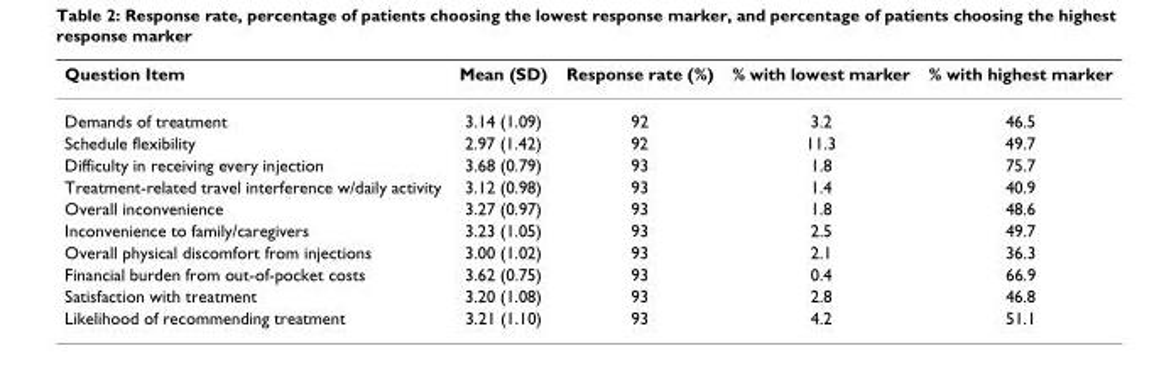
<table><thead><tr><td>Question Item</td><td>Mean (SD)</td><td>Response rate (%)</td><td>% with lowest marker</td><td>% with highest marker</td></tr></thead><tbody><tr><td>Demands of treatment</td><td>3.14 (1.09)</td><td>92</td><td>3.2</td><td>46.5</td></tr><tr><td>Schedule flexibility</td><td>2.97 (1.42)</td><td>92</td><td>11.3</td><td>49.7</td></tr><tr><td>Difficulty in receiving every injection</td><td>3.68 (0.79)</td><td>93</td><td>1.8</td><td>75.7</td></tr><tr><td>Treatment-related travel interference w/daily activity</td><td>3.12 (0.98)</td><td>93</td><td>1.4</td><td>40.9</td></tr><tr><td>Overall inconvenience</td><td>3.27 (0.97)</td><td>93</td><td>1.8</td><td>48.6</td></tr><tr><td>Inconvenience to family/caregivers</td><td>3.23 (1.05)</td><td>93</td><td>2.5</td><td>49.7</td></tr><tr><td>Overall physical discomfort from injections</td><td>3.00 (1.02)</td><td>93</td><td>2.1</td><td>36.3</td></tr><tr><td>Financial burden from out-of-pocket costs</td><td>3.62 (0.75)</td><td>93</td><td>0.4</td><td>66.9</td></tr><tr><td>Satisfaction with treatment</td><td>3.20 (1.08)</td><td>93</td><td>2.8</td><td>46.8</td></tr><tr><td>Likelihood of recommending treatment</td><td>3.21 (1.10)</td><td>93</td><td>4.2</td><td>51.1</td></tr></tbody></table>